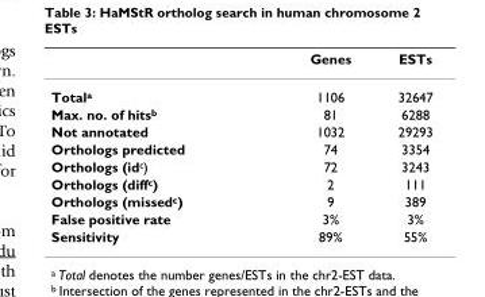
<table><thead><tr><td></td><td>Genes</td><td>ESTs</td></tr></thead><tbody><tr><td>Total<sup>a</sup></td><td>1106</td><td>32647</td></tr><tr><td>Max. no. of hits<sup>b</sup></td><td>81</td><td>6288</td></tr><tr><td>Not annotated</td><td>1032</td><td>29293</td></tr><tr><td>Orthologs predicted</td><td>74</td><td>3354</td></tr><tr><td>Orthologs (id<sup>c</sup>)</td><td>72</td><td>3243</td></tr><tr><td>Orthologs (diff<sup>c</sup>)</td><td>2</td><td>111</td></tr><tr><td>Orthologs (missed<sup>c</sup>)</td><td>9</td><td>389</td></tr><tr><td>False positive rate</td><td>3%</td><td>3%</td></tr><tr><td>Sensitivity</td><td>89%</td><td>55%</td></tr></tbody></table>